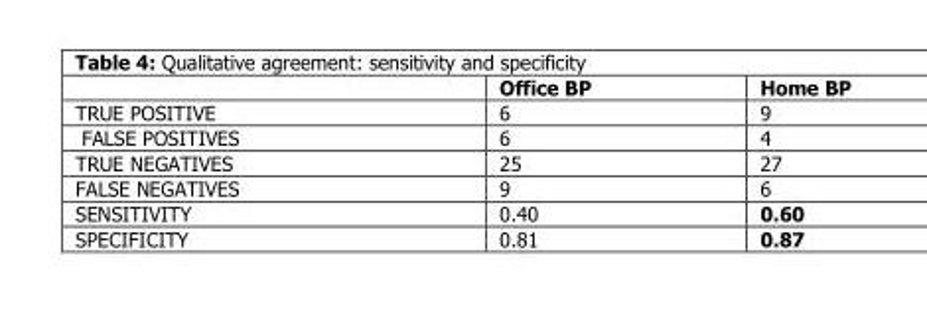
<table><thead><tr><td></td><td>Office BP</td><td>Home BP</td></tr></thead><tbody><tr><td>TRUE POSITIVE</td><td>6</td><td>9</td></tr><tr><td>FALSE POSITIVES</td><td>6</td><td>4</td></tr><tr><td>TRUE NEGATIVES</td><td>25</td><td>27</td></tr><tr><td>FALSE NEGATIVES</td><td>9</td><td>6</td></tr><tr><td>SENSITIVITY</td><td>0.40</td><td>0.60</td></tr><tr><td>SPECIFICITY</td><td>0.81</td><td>0.87</td></tr></tbody></table>